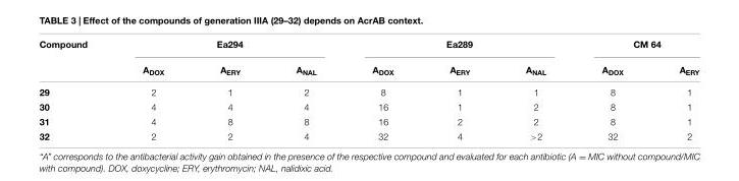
<table><thead><tr><td rowspan="2">Compound</td><td colspan="3">Ea294</td><td colspan="3">Ea289</td><td colspan="2">CM 64</td></tr><tr><td>A<sub>DOX</sub></td><td>A<sub>ERY</sub></td><td>A<sub>NAL</sub></td><td>A<sub>DOX</sub></td><td>A<sub>ERY</sub></td><td>A<sub>NAL</sub></td><td>A<sub>DOX</sub></td><td>A<sub>ERY</sub></td></tr></thead><tbody><tr><td>29</td><td>2</td><td>1</td><td>2</td><td>8</td><td>1</td><td>1</td><td>8</td><td>1</td></tr><tr><td>30</td><td>4</td><td>4</td><td>4</td><td>16</td><td>1</td><td>2</td><td>8</td><td>1</td></tr><tr><td>31</td><td>4</td><td>8</td><td>8</td><td>16</td><td>2</td><td>2</td><td>8</td><td>1</td></tr><tr><td>32</td><td>2</td><td>2</td><td>4</td><td>32</td><td>4</td><td>&gt;2</td><td>32</td><td>2</td></tr></tbody></table>